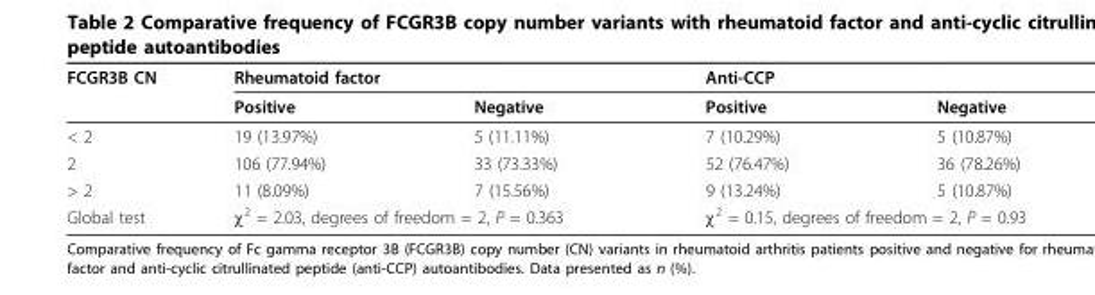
<table><thead><tr><td rowspan="2">FCGR3B CN</td><td colspan="2">Rheumatoid factor</td><td colspan="2">Anti-CCP</td></tr><tr><td>Positive</td><td>Negative</td><td>Positive</td><td>Negative</td></tr></thead><tbody><tr><td>&lt; 2</td><td>19 (13.97%)</td><td>5 (11.11%)</td><td>7 (10.29%)</td><td>5 (10.87%)</td></tr><tr><td>2</td><td>106 (77.94%)</td><td>33 (73.33%)</td><td>52 (76.47%)</td><td>36 (78.26%)</td></tr><tr><td>&gt; 2</td><td>11 (8.09%)</td><td>7 (15.56%)</td><td>9 (13.24%)</td><td>5 (10.87%)</td></tr><tr><td>Global test</td><td colspan="2">χ<sup>2</sup> = 2.03, degrees of freedom = 2, P = 0.363</td><td colspan="2">χ<sup>2</sup> = 0.15, degrees of freedom = 2, P = 0.93</td></tr></tbody></table>